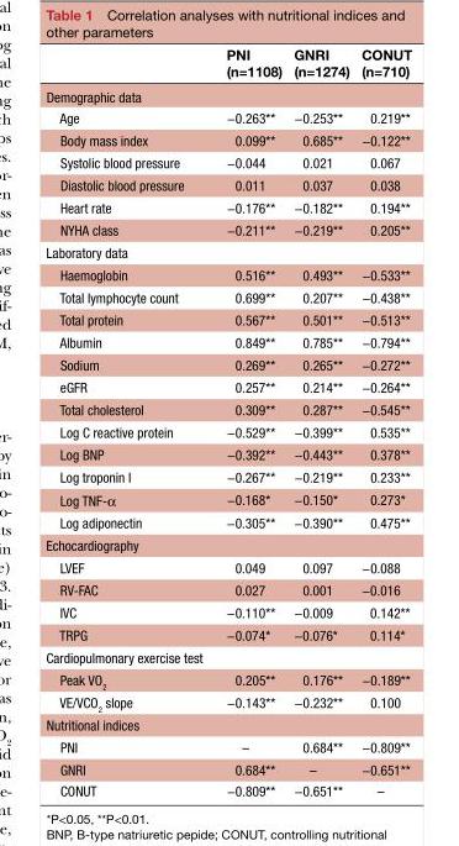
<table><thead><tr><td></td><td>PNI (n=1108)</td><td>GNRI (n=1274)</td><td>CONUT (n=710)</td></tr></thead><tbody><tr><td colspan="4">Demographic data</td></tr><tr><td>Age</td><td>−0.263**</td><td>−0.253**</td><td>0.219**</td></tr><tr><td>Body mass index</td><td>0.099**</td><td>0.685**</td><td>−0.122**</td></tr><tr><td>Systolic blood pressure</td><td>−0.044</td><td>0.021</td><td>0.067</td></tr><tr><td>Diastolic blood pressure</td><td>0.011</td><td>0.037</td><td>0.038</td></tr><tr><td>Heart rate</td><td>−0.176**</td><td>−0.182**</td><td>0.194**</td></tr><tr><td>NYHA class</td><td>−0.211**</td><td>−0.219**</td><td>0.205**</td></tr><tr><td colspan="4">Laboratory data</td></tr><tr><td>Haemoglobin</td><td>0.516**</td><td>0.493**</td><td>−0.533**</td></tr><tr><td>Total lymphocyte count</td><td>0.699**</td><td>0.207**</td><td>−0.438**</td></tr><tr><td>Total protein</td><td>0.567**</td><td>0.501**</td><td>−0.513**</td></tr><tr><td>Albumin</td><td>0.849**</td><td>0.785**</td><td>−0.794**</td></tr><tr><td>Sodium</td><td>0.269**</td><td>0.265**</td><td>−0.272**</td></tr><tr><td>eGFR</td><td>0.257**</td><td>0.214**</td><td>−0.264**</td></tr><tr><td>Total cholesterol</td><td>0.309**</td><td>0.287**</td><td>−0.545**</td></tr><tr><td>Log C reactive protein</td><td>−0.529**</td><td>−0.399**</td><td>0.535**</td></tr><tr><td>Log BNP</td><td>−0.392**</td><td>−0.443**</td><td>0.378**</td></tr><tr><td>Log troponin I</td><td>−0.267**</td><td>−0.219**</td><td>0.233**</td></tr><tr><td>Log TNF-α</td><td>−0.168*</td><td>−0.150*</td><td>0.273*</td></tr><tr><td>Log adiponectin</td><td>−0.305**</td><td>−0.390**</td><td>0.475**</td></tr><tr><td colspan="4">Echocardiography</td></tr><tr><td>LVEF</td><td>0.049</td><td>0.097</td><td>−0.088</td></tr><tr><td>RV-FAC</td><td>0.027</td><td>0.001</td><td>−0.016</td></tr><tr><td>IVC</td><td>−0.110**</td><td>−0.009</td><td>0.142**</td></tr><tr><td>TRPG</td><td>−0.074*</td><td>−0.076*</td><td>0.114*</td></tr><tr><td colspan="4">Cardiopulmonary exercise test</td></tr><tr><td>Peak VO<sub>2</sub></td><td>0.205**</td><td>0.176**</td><td>−0.189**</td></tr><tr><td>VE/VCO<sub>2</sub> slope</td><td>−0.143**</td><td>−0.232**</td><td>0.100</td></tr><tr><td colspan="4">Nutritional indices</td></tr><tr><td>PNI</td><td>–</td><td>0.684**</td><td>−0.809**</td></tr><tr><td>GNRI</td><td>0.684**</td><td>–</td><td>−0.651**</td></tr><tr><td>CONUT</td><td>−0.809**</td><td>−0.651**</td><td>–</td></tr></tbody></table>